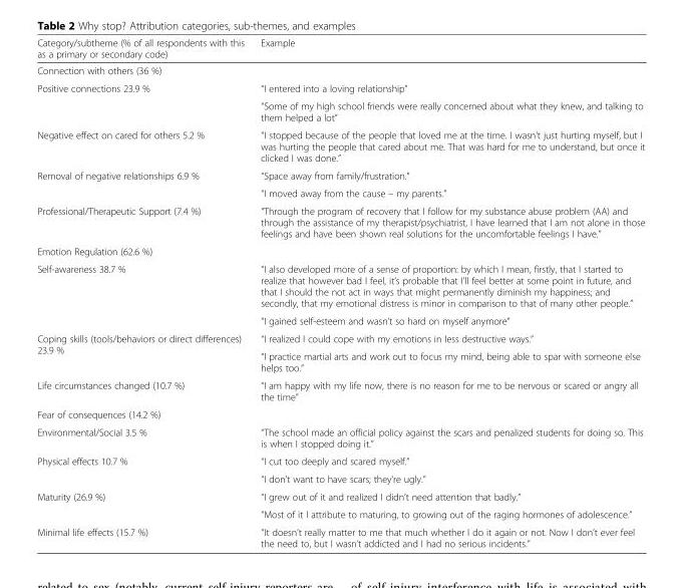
<table><thead><tr><td>Category/subtheme (% of all respondents with this as a primary or secondary code)</td><td>Example</td></tr></thead><tbody><tr><td colspan="2">Connection with others (36 %)</td></tr><tr><td rowspan="2">Positive connections 23.9 %</td><td>“I entered into a loving relationship”</td></tr><tr><td>“Some of my high school friends were really concerned about what they knew, and talking to them helped a lot”</td></tr><tr><td>Negative effect on cared for others 5.2 %</td><td>“I stopped because of the people that loved me at the time. I wasn’t just hurting myself, but I was hurting the people that cared about me. That was hard for me to understand, but once it clicked I was done.”</td></tr><tr><td rowspan="2">Removal of negative relationships 6.9 %</td><td>“Space away from family/frustration.”</td></tr><tr><td>“I moved away from the cause – my parents.”</td></tr><tr><td>Professional/Therapeutic Support (7.4 %)</td><td>“Through the program of recovery that I follow for my substance abuse problem (AA) and through the assistance of my therapist/psychiatrist, I have learned that I am not alone in those feelings and have been shown real solutions for the uncomfortable feelings I have.”</td></tr><tr><td colspan="2">Emotion Regulation (62.6 %)</td></tr><tr><td rowspan="2">Self-awareness 38.7 %</td><td>“I also developed more of a sense of proportion: by which I mean, firstly, that I started to realize that however bad I feel, it’s probable that I’ll feel better at some point in future, and that I should the not act in ways that might permanently diminish my happiness; and secondly, that my emotional distress is minor in comparison to that of many other people.”</td></tr><tr><td>“I gained self-esteem and wasn’t so hard on myself anymore”</td></tr><tr><td rowspan="2">Coping skills (tools/behaviors or direct differences) 23.9 %</td><td>“I realized I could cope with my emotions in less destructive ways.”</td></tr><tr><td>“I practice martial arts and work out to focus my mind, being able to spar with someone else helps too.”</td></tr><tr><td>Life circumstances changed (10.7 %)</td><td>“I am happy with my life now, there is no reason for me to be nervous or scared or angry all the time”</td></tr><tr><td colspan="2">Fear of consequences (14.2 %)</td></tr><tr><td>Environmental/Social 3.5 %</td><td>“The school made an official policy against the scars and penalized students for doing so. This is when I stopped doing it.”</td></tr><tr><td rowspan="2">Physical effects 10.7 %</td><td>“I cut too deeply and scared myself.”</td></tr><tr><td>“I don’t want to have scars; they’re ugly.”</td></tr><tr><td rowspan="2">Maturity (26.9 %)</td><td>“I grew out of it and realized I didn’t need attention that badly.”</td></tr><tr><td>“Most of it I attribute to maturing, to growing out of the raging hormones of adolescence.”</td></tr><tr><td>Minimal life effects (15.7 %)</td><td>“It doesn’t really matter to me that much whether I do it again or not. Now I don’t ever feel the need to, but I wasn’t addicted and I had no serious incidents.”</td></tr></tbody></table>